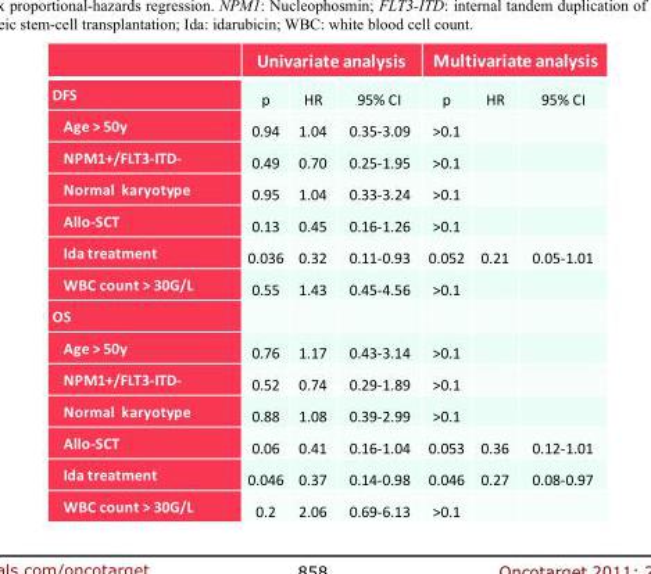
<table><thead><tr><td rowspan="2">DFS</td><td colspan="3">Univariate analysis</td><td colspan="3">Multivariate analysis</td></tr><tr><td>p</td><td>HR</td><td>95% CI</td><td>p</td><td>HR</td><td>95% CI</td></tr></thead><tbody><tr><td>Age &gt; 50y</td><td>0.94</td><td>1.04</td><td>0.35-3.09</td><td>&gt;0.1</td><td></td><td></td></tr><tr><td>NPM1+/FLT3-ITD-</td><td>0.49</td><td>0.70</td><td>0.25-1.95</td><td>&gt;0.1</td><td></td><td></td></tr><tr><td>Normal karyotype</td><td>0.95</td><td>1.04</td><td>0.33-3.24</td><td>&gt;0.1</td><td></td><td></td></tr><tr><td>Allo-SCT</td><td>0.13</td><td>0.45</td><td>0.16-1.26</td><td>&gt;0.1</td><td></td><td></td></tr><tr><td>Ida treatment</td><td>0.036</td><td>0.32</td><td>0.11-0.93</td><td>0.052</td><td>0.21</td><td>0.05-1.01</td></tr><tr><td>WBC count &gt; 30G/L</td><td>0.55</td><td>1.43</td><td>0.45-4.56</td><td>&gt;0.1</td><td></td><td></td></tr><tr><td colspan="7">OS</td></tr><tr><td>Age &gt; 50y</td><td>0.76</td><td>1.17</td><td>0.43-3.14</td><td>&gt;0.1</td><td></td><td></td></tr><tr><td>NPM1+/FLT3-ITD-</td><td>0.52</td><td>0.74</td><td>0.29-1.89</td><td>&gt;0.1</td><td></td><td></td></tr><tr><td>Normal karyotype</td><td>0.88</td><td>1.08</td><td>0.39-2.99</td><td>&gt;0.1</td><td></td><td></td></tr><tr><td>Allo-SCT</td><td>0.06</td><td>0.41</td><td>0.16-1.04</td><td>0.053</td><td>0.36</td><td>0.12-1.01</td></tr><tr><td>Ida treatment</td><td>0.046</td><td>0.37</td><td>0.14-0.98</td><td>0.046</td><td>0.27</td><td>0.08-0.97</td></tr><tr><td>WBC count &gt; 30G/L</td><td>0.2</td><td>2.06</td><td>0.69-6.13</td><td>&gt;0.1</td><td></td><td></td></tr></tbody></table>